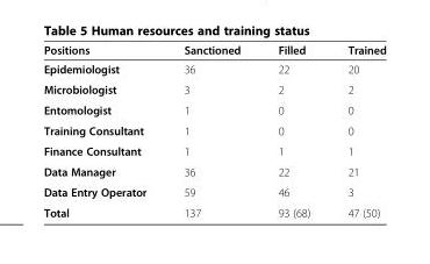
<table><thead><tr><td>Positions</td><td>Sanctioned</td><td>Filled</td><td>Trained</td></tr></thead><tbody><tr><td>Epidemiologist</td><td>36</td><td>22</td><td>20</td></tr><tr><td>Microbiologist</td><td>3</td><td>2</td><td>2</td></tr><tr><td>Entomologist</td><td>1</td><td>0</td><td>0</td></tr><tr><td>Training Consultant</td><td>1</td><td>0</td><td>0</td></tr><tr><td>Finance Consultant</td><td>1</td><td>1</td><td>1</td></tr><tr><td>Data Manager</td><td>36</td><td>22</td><td>21</td></tr><tr><td>Data Entry Operator</td><td>59</td><td>46</td><td>3</td></tr><tr><td>Total</td><td>137</td><td>93 (68)</td><td>47 (50)</td></tr></tbody></table>